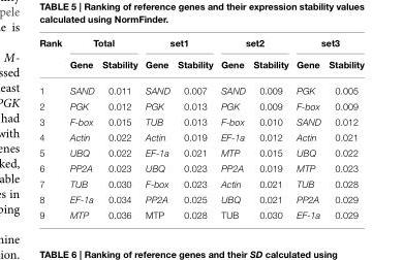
<table><thead><tr><td rowspan="2">Rank</td><td colspan="2">Total</td><td colspan="2">set1</td><td colspan="2">set2</td><td colspan="2">set3</td></tr><tr><td>Gene</td><td>Stability</td><td>Gene</td><td>Stability</td><td>Gene</td><td>Stability</td><td>Gene</td><td>Stability</td></tr></thead><tbody><tr><td>1</td><td>SAND</td><td>0.011</td><td>SAND</td><td>0.007</td><td>SAND</td><td>0.009</td><td>PGK</td><td>0.005</td></tr><tr><td>2</td><td>PGK</td><td>0.012</td><td>PGK</td><td>0.013</td><td>PGK</td><td>0.009</td><td>F-box</td><td>0.009</td></tr><tr><td>3</td><td>F-box</td><td>0.015</td><td>TUB</td><td>0.013</td><td>F-box</td><td>0.010</td><td>SAND</td><td>0.012</td></tr><tr><td>4</td><td>Actin</td><td>0.022</td><td>Actin</td><td>0.019</td><td>EF-1a</td><td>0.012</td><td>Actin</td><td>0.021</td></tr><tr><td>5</td><td>UBQ</td><td>0.022</td><td>EF-1a</td><td>0.021</td><td>MTP</td><td>0.015</td><td>UBQ</td><td>0.022</td></tr><tr><td>6</td><td>PP2A</td><td>0.023</td><td>UBQ</td><td>0.023</td><td>PP2A</td><td>0.019</td><td>MTP</td><td>0.023</td></tr><tr><td>7</td><td>TUB</td><td>0.030</td><td>F-box</td><td>0.023</td><td>Actin</td><td>0.021</td><td>TUB</td><td>0.028</td></tr><tr><td>8</td><td>EF-1a</td><td>0.034</td><td>PP2A</td><td>0.025</td><td>UBQ</td><td>0.021</td><td>PP2A</td><td>0.029</td></tr><tr><td>9</td><td>MTP</td><td>0.036</td><td>MTP</td><td>0.028</td><td>TUB</td><td>0.030</td><td>EF-1a</td><td>0.029</td></tr></tbody></table>